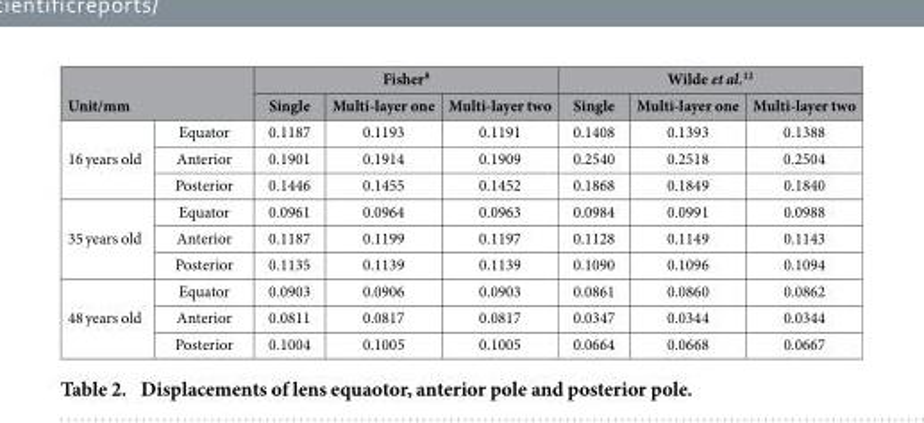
<table><thead><tr><td></td><td></td><td colspan="3">Fisher<sup>8</sup></td><td colspan="3">Wilde et al.<sup>12</sup></td></tr><tr><td colspan="2">Unit/mm</td><td>Single</td><td>Multi-layer one</td><td>Multi-layer two</td><td>Single</td><td>Multi-layer one</td><td>Multi-layer two</td></tr></thead><tbody><tr><td rowspan="3">16 years old</td><td>Equator</td><td>0.1187</td><td>0.1193</td><td>0.1191</td><td>0.1408</td><td>0.1393</td><td>0.1388</td></tr><tr><td>Anterior</td><td>0.1901</td><td>0.1914</td><td>0.1909</td><td>0.2540</td><td>0.2518</td><td>0.2504</td></tr><tr><td>Posterior</td><td>0.1446</td><td>0.1455</td><td>0.1452</td><td>0.1868</td><td>0.1849</td><td>0.1840</td></tr><tr><td rowspan="3">35 years old</td><td>Equator</td><td>0.0961</td><td>0.0964</td><td>0.0963</td><td>0.0984</td><td>0.0991</td><td>0.0988</td></tr><tr><td>Anterior</td><td>0.1187</td><td>0.1199</td><td>0.1197</td><td>0.1128</td><td>0.1149</td><td>0.1143</td></tr><tr><td>Posterior</td><td>0.1135</td><td>0.1139</td><td>0.1139</td><td>0.1090</td><td>0.1096</td><td>0.1094</td></tr><tr><td rowspan="3">48 years old</td><td>Equator</td><td>0.0903</td><td>0.0906</td><td>0.0903</td><td>0.0861</td><td>0.0860</td><td>0.0862</td></tr><tr><td>Anterior</td><td>0.0811</td><td>0.0817</td><td>0.0817</td><td>0.0347</td><td>0.0344</td><td>0.0344</td></tr><tr><td>Posterior</td><td>0.1004</td><td>0.1005</td><td>0.1005</td><td>0.0664</td><td>0.0668</td><td>0.0667</td></tr></tbody></table>